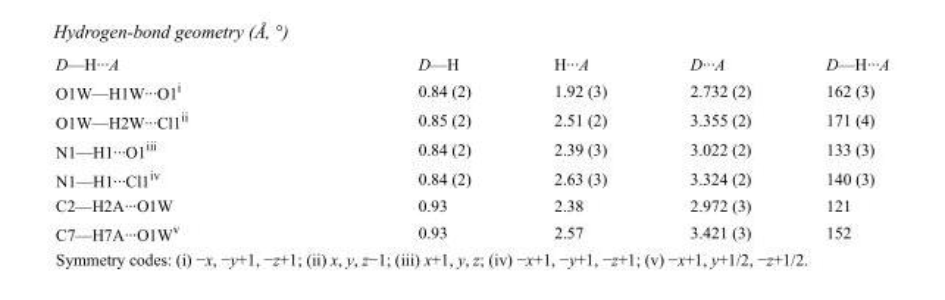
<table><tbody><tr><td>D—H···A</td><td>D—H</td><td>H···A</td><td>D···A</td><td>D—H···A</td></tr><tr><td>O1W—H1W···O1<sup>i</sup></td><td>0.84 (2)</td><td>1.92 (3)</td><td>2.732 (2)</td><td>162 (3)</td></tr><tr><td>O1W—H2W···Cl1<sup>ii</sup></td><td>0.85 (2)</td><td>2.51 (2)</td><td>3.355 (2)</td><td>171 (4)</td></tr><tr><td>N1—H1···O1<sup>iii</sup></td><td>0.84 (2)</td><td>2.39 (3)</td><td>3.022 (2)</td><td>133 (3)</td></tr><tr><td>N1—H1···Cl1<sup>iv</sup></td><td>0.84 (2)</td><td>2.63 (3)</td><td>3.324 (2)</td><td>140 (3)</td></tr><tr><td>C2—H2A···O1W</td><td>0.93</td><td>2.38</td><td>2.972 (3)</td><td>121</td></tr><tr><td>C7—H7A···O1W<sup>v</sup></td><td>0.93</td><td>2.57</td><td>3.421 (3)</td><td>152</td></tr></tbody></table>